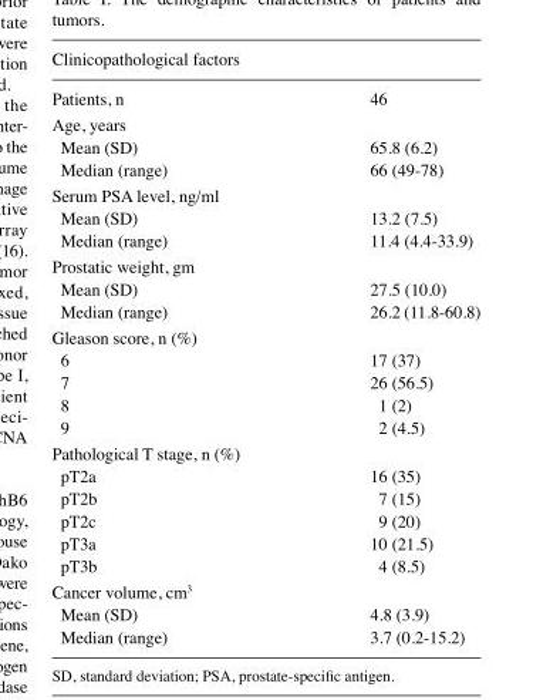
<table><thead><tr><td colspan="2">Clinicopathological factors</td></tr><tr><td>Patients, n</td><td>46</td></tr></thead><tbody><tr><td colspan="2">Age, years</td></tr><tr><td>Mean (SD)</td><td>65.8 (6.2)</td></tr><tr><td>Median (range)</td><td>66 (49-78)</td></tr><tr><td colspan="2">Serum PSA level, ng/ml</td></tr><tr><td>Mean (SD)</td><td>13.2 (7.5)</td></tr><tr><td>Median (range)</td><td>11.4 (4.4-33.9)</td></tr><tr><td colspan="2">Prostatic weight, gm</td></tr><tr><td>Mean (SD)</td><td>27.5 (10.0)</td></tr><tr><td>Median (range)</td><td>26.2 (11.8-60.8)</td></tr><tr><td colspan="2">Gleason score, n (%)</td></tr><tr><td>6</td><td>17 (37)</td></tr><tr><td>7</td><td>26 (56.5)</td></tr><tr><td>8</td><td>1 (2)</td></tr><tr><td>9</td><td>2 (4.5)</td></tr><tr><td colspan="2">Pathological T stage, n (%)</td></tr><tr><td>pT2a</td><td>16 (35)</td></tr><tr><td>pT2b</td><td>7 (15)</td></tr><tr><td>pT2c</td><td>9 (20)</td></tr><tr><td>pT3a</td><td>10 (21.5)</td></tr><tr><td>pT3b</td><td>4 (8.5)</td></tr><tr><td colspan="2">Cancer volume, cm<sup>3</sup></td></tr><tr><td>Mean (SD)</td><td>4.8 (3.9)</td></tr><tr><td>Median (range)</td><td>3.7 (0.2-15.2)</td></tr></tbody></table>